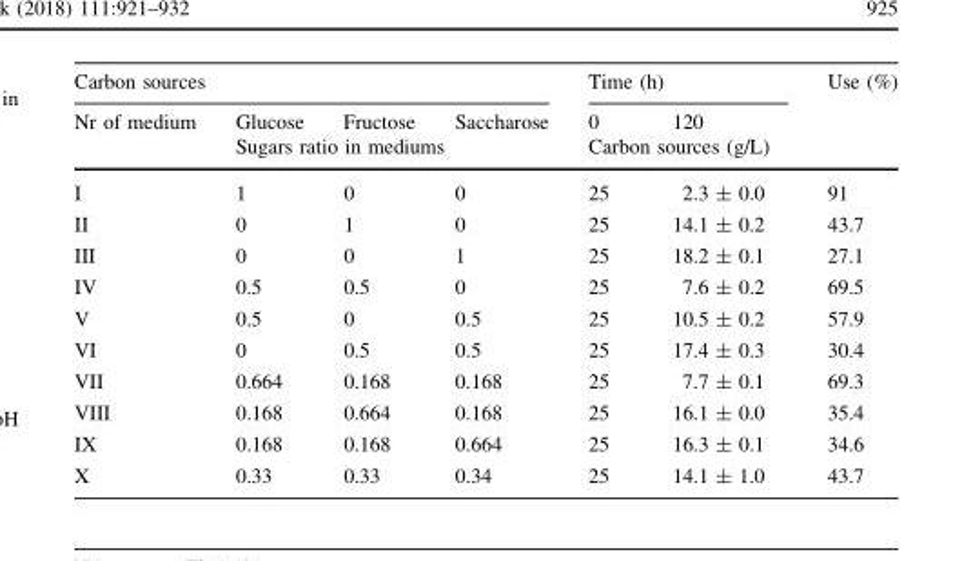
<table><thead><tr><td colspan="4">Carbon sources</td><td colspan="2">Time (h)</td><td rowspan="3">Use (%)</td></tr><tr><td rowspan="2">Nr of medium</td><td>Glucose</td><td>Fructose</td><td>Saccharose</td><td>0</td><td>120</td></tr><tr><td colspan="3">Sugars ratio in mediums</td><td colspan="2">Carbon sources (g/L)</td></tr></thead><tbody><tr><td>I</td><td>1</td><td>0</td><td>0</td><td>25</td><td>2.3 ± 0.0</td><td>91</td></tr><tr><td>II</td><td>0</td><td>1</td><td>0</td><td>25</td><td>14.1 ± 0.2</td><td>43.7</td></tr><tr><td>III</td><td>0</td><td>0</td><td>1</td><td>25</td><td>18.2 ± 0.1</td><td>27.1</td></tr><tr><td>IV</td><td>0.5</td><td>0.5</td><td>0</td><td>25</td><td>7.6 ± 0.2</td><td>69.5</td></tr><tr><td>V</td><td>0.5</td><td>0</td><td>0.5</td><td>25</td><td>10.5 ± 0.2</td><td>57.9</td></tr><tr><td>VI</td><td>0</td><td>0.5</td><td>0.5</td><td>25</td><td>17.4 ± 0.3</td><td>30.4</td></tr><tr><td>VII</td><td>0.664</td><td>0.168</td><td>0.168</td><td>25</td><td>7.7 ± 0.1</td><td>69.3</td></tr><tr><td>VIII</td><td>0.168</td><td>0.664</td><td>0.168</td><td>25</td><td>16.1 ± 0.0</td><td>35.4</td></tr><tr><td>IX</td><td>0.168</td><td>0.168</td><td>0.664</td><td>25</td><td>16.3 ± 0.1</td><td>34.6</td></tr><tr><td>X</td><td>0.33</td><td>0.33</td><td>0.34</td><td>25</td><td>14.1 ± 1.0</td><td>43.7</td></tr></tbody></table>